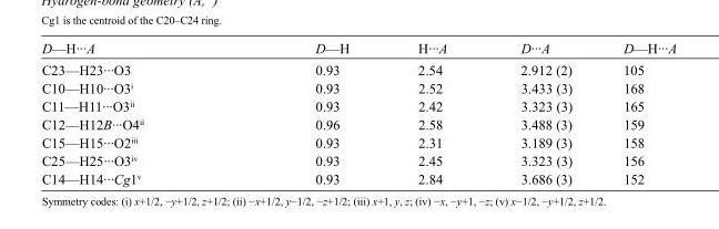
<table><tbody><tr><td>D—H···A</td><td>D—H</td><td>H···A</td><td>D···A</td><td>D—H···A</td></tr><tr><td>C23—H23···O3</td><td>0.93</td><td>2.54</td><td>2.912 (2)</td><td>105</td></tr><tr><td>C10—H10···O3<sup>i</sup></td><td>0.93</td><td>2.52</td><td>3.433 (3)</td><td>168</td></tr><tr><td>C11—H11···O3<sup>ii</sup></td><td>0.93</td><td>2.42</td><td>3.323 (3)</td><td>165</td></tr><tr><td>C12—H12B···O4<sup>ii</sup></td><td>0.96</td><td>2.58</td><td>3.488 (3)</td><td>159</td></tr><tr><td>C15—H15···O2<sup>iii</sup></td><td>0.93</td><td>2.31</td><td>3.189 (3)</td><td>158</td></tr><tr><td>C25—H25···O3<sup>iv</sup></td><td>0.93</td><td>2.45</td><td>3.323 (3)</td><td>156</td></tr><tr><td>C14—H14···Cg1<sup>v</sup></td><td>0.93</td><td>2.84</td><td>3.686 (3)</td><td>152</td></tr></tbody></table>